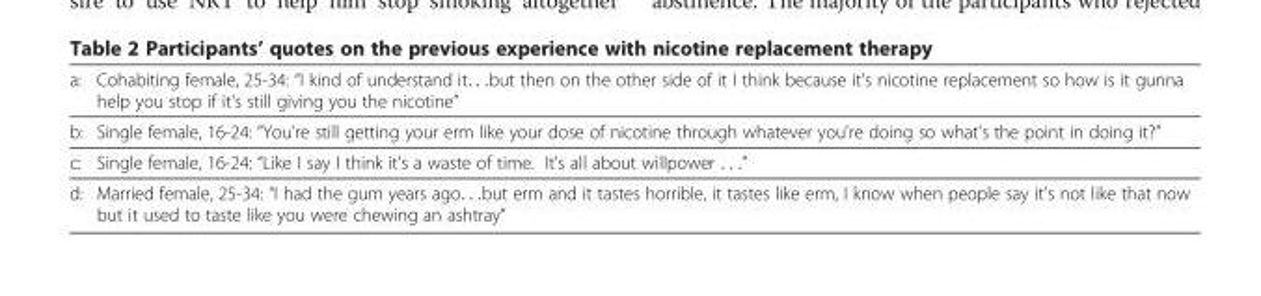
<table><tbody><tr><td>a:</td><td>Cohabiting female, 25-34: “I kind of understand it. . .but then on the other side of it I think because it&#x27;s nicotine replacement so how is it gunna help you stop if it&#x27;s still giving you the nicotine”</td></tr><tr><td>b:</td><td>Single female, 16-24: “You&#x27;re still getting your erm like your dose of nicotine through whatever you&#x27;re doing so what&#x27;s the point in doing it?”</td></tr><tr><td>c:</td><td>Single female, 16-24: “Like I say I think it&#x27;s a waste of time. It&#x27;s all about willpower . . .”</td></tr><tr><td>d:</td><td>Married female, 25-34: “I had the gum years ago. . .but erm and it tastes horrible, it tastes like erm, I know when people say it&#x27;s not like that now but it used to taste like you were chewing an ashtray”</td></tr></tbody></table>